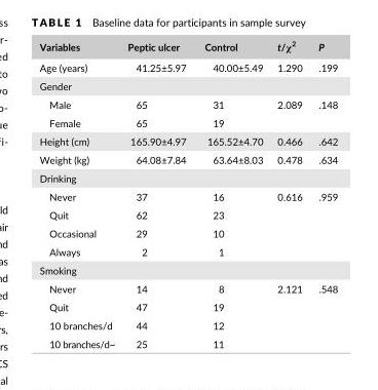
<table><thead><tr><td>Variables</td><td>Peptic ulcer</td><td>Control</td><td>t/χ<sup>2</sup></td><td>P</td></tr></thead><tbody><tr><td>Age (years)</td><td>41.25±5.97</td><td>40.00±5.49</td><td>1.290</td><td>.199</td></tr><tr><td colspan="5">Gender</td></tr><tr><td>Male</td><td>65</td><td>31</td><td>2.089</td><td>.148</td></tr><tr><td>Female</td><td>65</td><td>19</td><td></td><td></td></tr><tr><td>Height (cm)</td><td>165.90±4.97</td><td>165.52±4.70</td><td>0.466</td><td>.642</td></tr><tr><td>Weight (kg)</td><td>64.08±7.84</td><td>63.64±8.03</td><td>0.478</td><td>.634</td></tr><tr><td colspan="5">Drinking</td></tr><tr><td>Never</td><td>37</td><td>16</td><td>0.616</td><td>.959</td></tr><tr><td>Quit</td><td>62</td><td>23</td><td></td><td></td></tr><tr><td>Occasional</td><td>29</td><td>10</td><td></td><td></td></tr><tr><td>Always</td><td>2</td><td>1</td><td></td><td></td></tr><tr><td colspan="5">Smoking</td></tr><tr><td>Never</td><td>14</td><td>8</td><td>2.121</td><td>.548</td></tr><tr><td>Quit</td><td>47</td><td>19</td><td></td><td></td></tr><tr><td>10 branches/d</td><td>44</td><td>12</td><td></td><td></td></tr><tr><td>10 branches/d~</td><td>25</td><td>11</td><td></td><td></td></tr></tbody></table>